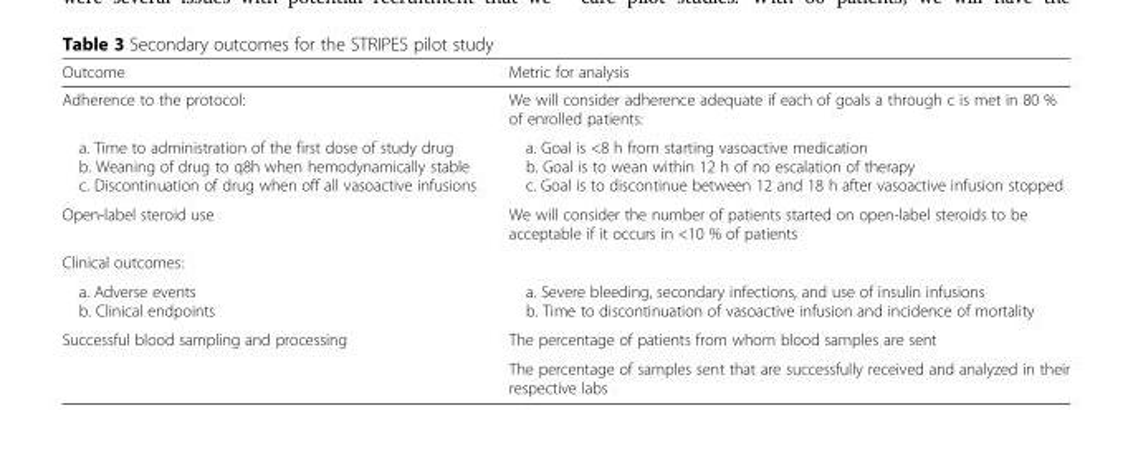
<table><thead><tr><td>Outcome</td><td>Metric for analysis</td></tr></thead><tbody><tr><td>Adherence to the protocol:</td><td>We will consider adherence adequate if each of goals a through c is met in 80 % of enrolled patients:</td></tr><tr><td>a. Time to administration of the first dose of study drug b. Weaning of drug to q8h when hemodynamically stable c. Discontinuation of drug when off all vasoactive infusions</td><td>a. Goal is &lt;8 h from starting vasoactive medication b. Goal is to wean within 12 h of no escalation of therapy c. Goal is to discontinue between 12 and 18 h after vasoactive infusion stopped</td></tr><tr><td>Open-label steroid use</td><td>We will consider the number of patients started on open-label steroids to be acceptable if it occurs in &lt;10 % of patients</td></tr><tr><td colspan="2">Clinical outcomes:</td></tr><tr><td>a. Adverse events b. Clinical endpoints</td><td>a. Severe bleeding, secondary infections, and use of insulin infusions b. Time to discontinuation of vasoactive infusion and incidence of mortality</td></tr><tr><td rowspan="2">Successful blood sampling and processing</td><td>The percentage of patients from whom blood samples are sent</td></tr><tr><td>The percentage of samples sent that are successfully received and analyzed in their respective labs</td></tr></tbody></table>